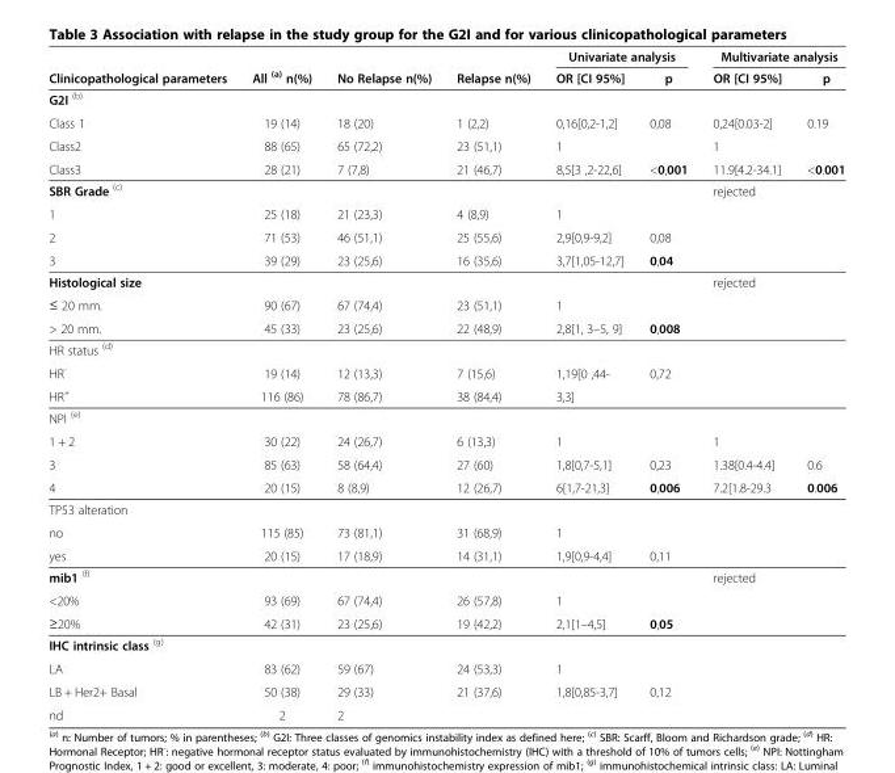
<table><thead><tr><td rowspan="2">Clinicopathological parameters</td><td rowspan="2">All <sup>(a)</sup> n(%)</td><td rowspan="2">No Relapse n(%)</td><td rowspan="2">Relapse n(%)</td><td colspan="2">Univariate analysis</td><td colspan="2">Multivariate analysis</td></tr><tr><td>OR [CI 95%]</td><td>p</td><td>OR [CI 95%]</td><td>p</td></tr></thead><tbody><tr><td colspan="8">G2I <sup>(b)</sup></td></tr><tr><td>Class 1</td><td>19 (14)</td><td>18 (20)</td><td>1 (2,2)</td><td>0,16[0,2-1,2]</td><td>0,08</td><td>0,24[0.03-2]</td><td>0.19</td></tr><tr><td>Class2</td><td>88 (65)</td><td>65 (72,2)</td><td>23 (51,1)</td><td>1</td><td></td><td>1</td><td></td></tr><tr><td>Class3</td><td>28 (21)</td><td>7 (7,8)</td><td>21 (46,7)</td><td>8,5[3 ,2-22,6]</td><td>&lt;0,001</td><td>11.9[4.2-34.1]</td><td>&lt;0.001</td></tr><tr><td>SBR Grade <sup>(c)</sup></td><td></td><td></td><td></td><td></td><td></td><td>rejected</td><td></td></tr><tr><td>1</td><td>25 (18)</td><td>21 (23,3)</td><td>4 (8,9)</td><td>1</td><td></td><td></td><td></td></tr><tr><td>2</td><td>71 (53)</td><td>46 (51,1)</td><td>25 (55,6)</td><td>2,9[0,9-9,2]</td><td>0,08</td><td></td><td></td></tr><tr><td>3</td><td>39 (29)</td><td>23 (25,6)</td><td>16 (35,6)</td><td>3,7[1,05-12,7]</td><td>0,04</td><td></td><td></td></tr><tr><td>Histological size</td><td></td><td></td><td></td><td></td><td></td><td>rejected</td><td></td></tr><tr><td>≤ 20 mm.</td><td>90 (67)</td><td>67 (74,4)</td><td>23 (51,1)</td><td>1</td><td></td><td></td><td></td></tr><tr><td>&gt; 20 mm.</td><td>45 (33)</td><td>23 (25,6)</td><td>22 (48,9)</td><td>2,8[1, 3–5, 9]</td><td>0,008</td><td></td><td></td></tr><tr><td colspan="8">HR status <sup>(d)</sup></td></tr><tr><td>HR<sup>-</sup></td><td>19 (14)</td><td>12 (13,3)</td><td>7 (15,6)</td><td>1,19[0 ,44-</td><td>0,72</td><td></td><td></td></tr><tr><td>HR<sup>+</sup></td><td>116 (86)</td><td>78 (86,7)</td><td>38 (84,4)</td><td>3,3]</td><td></td><td></td><td></td></tr><tr><td colspan="8">NPI <sup>(e)</sup></td></tr><tr><td>1 + 2</td><td>30 (22)</td><td>24 (26,7)</td><td>6 (13,3)</td><td>1</td><td></td><td>1</td><td></td></tr><tr><td>3</td><td>85 (63)</td><td>58 (64,4)</td><td>27 (60)</td><td>1,8[0,7-5,1]</td><td>0,23</td><td>1.38[0.4-4.4]</td><td>0.6</td></tr><tr><td>4</td><td>20 (15)</td><td>8 (8,9)</td><td>12 (26,7)</td><td>6[1,7-21,3]</td><td>0,006</td><td>7.2[1.8-29.3</td><td>0.006</td></tr><tr><td colspan="8">TP53 alteration</td></tr><tr><td>no</td><td>115 (85)</td><td>73 (81,1)</td><td>31 (68,9)</td><td>1</td><td></td><td></td><td></td></tr><tr><td>yes</td><td>20 (15)</td><td>17 (18,9)</td><td>14 (31,1)</td><td>1,9[0,9-4,4]</td><td>0,11</td><td></td><td></td></tr><tr><td>mib1 <sup>(f)</sup></td><td></td><td></td><td></td><td></td><td></td><td>rejected</td><td></td></tr><tr><td>&lt;20%</td><td>93 (69)</td><td>67 (74,4)</td><td>26 (57,8)</td><td>1</td><td></td><td></td><td></td></tr><tr><td>≥20%</td><td>42 (31)</td><td>23 (25,6)</td><td>19 (42,2)</td><td>2,1[1–4,5]</td><td>0,05</td><td></td><td></td></tr><tr><td colspan="8">IHC intrinsic class <sup>(g)</sup></td></tr><tr><td>LA</td><td>83 (62)</td><td>59 (67)</td><td>24 (53,3)</td><td>1</td><td></td><td></td><td></td></tr><tr><td>LB + Her2+ Basal</td><td>50 (38)</td><td>29 (33)</td><td>21 (37,6)</td><td>1,8[0,85-3,7]</td><td>0,12</td><td></td><td></td></tr><tr><td>nd</td><td>2</td><td>2</td><td></td><td></td><td></td><td></td><td></td></tr></tbody></table>